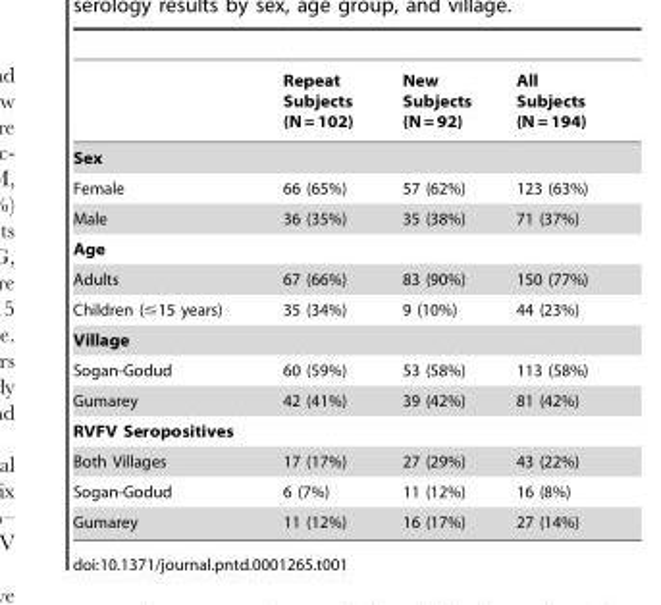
<table><thead><tr><td></td><td>Repeat Subjects (N = 102)</td><td>New Subjects (N = 92)</td><td>All Subjects (N = 194)</td></tr></thead><tbody><tr><td colspan="4">Sex</td></tr><tr><td>Female</td><td>66 (65%)</td><td>57 (62%)</td><td>123 (63%)</td></tr><tr><td>Male</td><td>36 (35%)</td><td>35 (38%)</td><td>71 (37%)</td></tr><tr><td colspan="4">Age</td></tr><tr><td>Adults</td><td>67 (66%)</td><td>83 (90%)</td><td>150 (77%)</td></tr><tr><td>Children (≤15 years)</td><td>35 (34%)</td><td>9 (10%)</td><td>44 (23%)</td></tr><tr><td colspan="4">Village</td></tr><tr><td>Sogan-Godud</td><td>60 (59%)</td><td>53 (58%)</td><td>113 (58%)</td></tr><tr><td>Gumarey</td><td>42 (41%)</td><td>39 (42%)</td><td>81 (42%)</td></tr><tr><td colspan="4">RVFV Seropositives</td></tr><tr><td>Both Villages</td><td>17 (17%)</td><td>27 (29%)</td><td>43 (22%)</td></tr><tr><td>Sogan-Godud</td><td>6 (7%)</td><td>11 (12%)</td><td>16 (8%)</td></tr><tr><td>Gumarey</td><td>11 (12%)</td><td>16 (17%)</td><td>27 (14%)</td></tr></tbody></table>